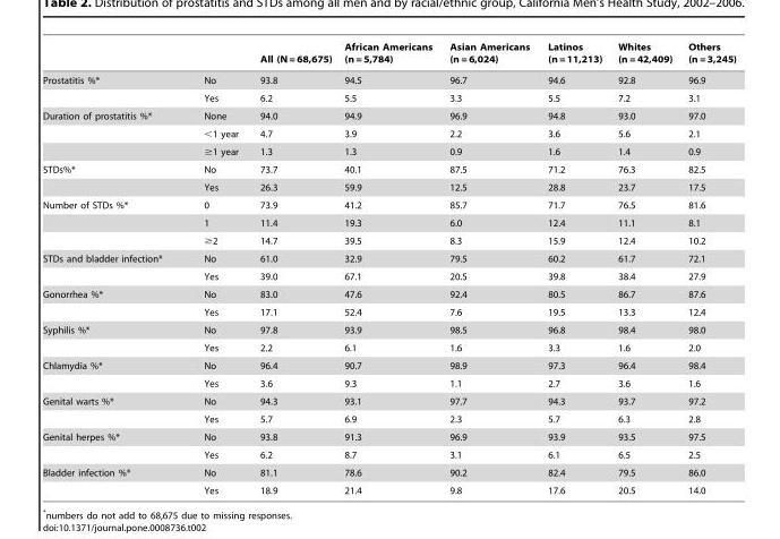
<table><thead><tr><td></td><td></td><td>All (N = 68,675)</td><td>African Americans (n = 5,784)</td><td>Asian Americans (n = 6,024)</td><td>Latinos (n = 11,213)</td><td>Whites (n = 42,409)</td><td>Others (n = 3,245)</td></tr></thead><tbody><tr><td rowspan="2">Prostatitis %*</td><td>No</td><td>93.8</td><td>94.5</td><td>96.7</td><td>94.6</td><td>92.8</td><td>96.9</td></tr><tr><td>Yes</td><td>6.2</td><td>5.5</td><td>3.3</td><td>5.5</td><td>7.2</td><td>3.1</td></tr><tr><td rowspan="3">Duration of prostatitis %*</td><td>None</td><td>94.0</td><td>94.9</td><td>96.9</td><td>94.8</td><td>93.0</td><td>97.0</td></tr><tr><td>&lt;1 year</td><td>4.7</td><td>3.9</td><td>2.2</td><td>3.6</td><td>5.6</td><td>2.1</td></tr><tr><td>≥1 year</td><td>1.3</td><td>1.3</td><td>0.9</td><td>1.6</td><td>1.4</td><td>0.9</td></tr><tr><td rowspan="2">STDs%*</td><td>No</td><td>73.7</td><td>40.1</td><td>87.5</td><td>71.2</td><td>76.3</td><td>82.5</td></tr><tr><td>Yes</td><td>26.3</td><td>59.9</td><td>12.5</td><td>28.8</td><td>23.7</td><td>17.5</td></tr><tr><td rowspan="3">Number of STDs %*</td><td>0</td><td>73.9</td><td>41.2</td><td>85.7</td><td>71.7</td><td>76.5</td><td>81.6</td></tr><tr><td>1</td><td>11.4</td><td>19.3</td><td>6.0</td><td>12.4</td><td>11.1</td><td>8.1</td></tr><tr><td>≥2</td><td>14.7</td><td>39.5</td><td>8.3</td><td>15.9</td><td>12.4</td><td>10.2</td></tr><tr><td rowspan="2">STDs and bladder infection*</td><td>No</td><td>61.0</td><td>32.9</td><td>79.5</td><td>60.2</td><td>61.7</td><td>72.1</td></tr><tr><td>Yes</td><td>39.0</td><td>67.1</td><td>20.5</td><td>39.8</td><td>38.4</td><td>27.9</td></tr><tr><td rowspan="2">Gonorrhea %*</td><td>No</td><td>83.0</td><td>47.6</td><td>92.4</td><td>80.5</td><td>86.7</td><td>87.6</td></tr><tr><td>Yes</td><td>17.1</td><td>52.4</td><td>7.6</td><td>19.5</td><td>13.3</td><td>12.4</td></tr><tr><td rowspan="2">Syphilis %*</td><td>No</td><td>97.8</td><td>93.9</td><td>98.5</td><td>96.8</td><td>98.4</td><td>98.0</td></tr><tr><td>Yes</td><td>2.2</td><td>6.1</td><td>1.6</td><td>3.3</td><td>1.6</td><td>2.0</td></tr><tr><td rowspan="2">Chlamydia %*</td><td>No</td><td>96.4</td><td>90.7</td><td>98.9</td><td>97.3</td><td>96.4</td><td>98.4</td></tr><tr><td>Yes</td><td>3.6</td><td>9.3</td><td>1.1</td><td>2.7</td><td>3.6</td><td>1.6</td></tr><tr><td rowspan="2">Genital warts %*</td><td>No</td><td>94.3</td><td>93.1</td><td>97.7</td><td>94.3</td><td>93.7</td><td>97.2</td></tr><tr><td>Yes</td><td>5.7</td><td>6.9</td><td>2.3</td><td>5.7</td><td>6.3</td><td>2.8</td></tr><tr><td rowspan="2">Genital herpes %*</td><td>No</td><td>93.8</td><td>91.3</td><td>96.9</td><td>93.9</td><td>93.5</td><td>97.5</td></tr><tr><td>Yes</td><td>6.2</td><td>8.7</td><td>3.1</td><td>6.1</td><td>6.5</td><td>2.5</td></tr><tr><td rowspan="2">Bladder infection %*</td><td>No</td><td>81.1</td><td>78.6</td><td>90.2</td><td>82.4</td><td>79.5</td><td>86.0</td></tr><tr><td>Yes</td><td>18.9</td><td>21.4</td><td>9.8</td><td>17.6</td><td>20.5</td><td>14.0</td></tr></tbody></table>